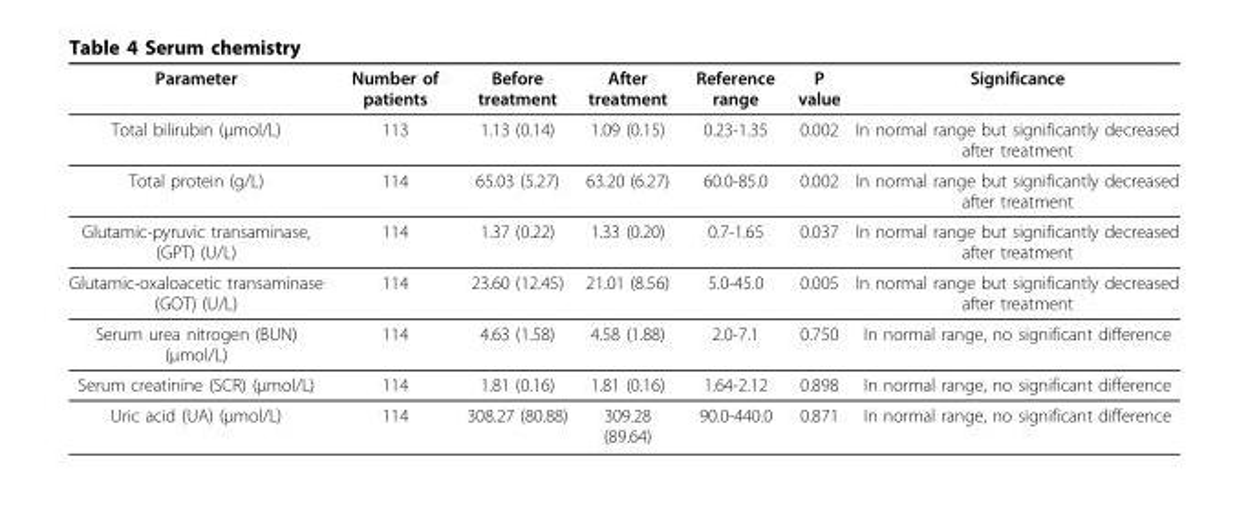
<table><thead><tr><td>Parameter</td><td>Number of patients</td><td>Before treatment</td><td>After treatment</td><td>Reference range</td><td>P value</td><td>Significance</td></tr></thead><tbody><tr><td>Total bilirubin (μmol/L)</td><td>113</td><td>1.13 (0.14)</td><td>1.09 (0.15)</td><td>0.23-1.35</td><td>0.002</td><td>In normal range but significantly decreased after treatment</td></tr><tr><td>Total protein (g/L)</td><td>114</td><td>65.03 (5.27)</td><td>63.20 (6.27)</td><td>60.0-85.0</td><td>0.002</td><td>In normal range but significantly decreased after treatment</td></tr><tr><td>Glutamic-pyruvic transaminase, (GPT) (U/L)</td><td>114</td><td>1.37 (0.22)</td><td>1.33 (0.20)</td><td>0.7-1.65</td><td>0.037</td><td>In normal range but significantly decreased after treatment</td></tr><tr><td>Glutamic-oxaloacetic transaminase (GOT) (U/L)</td><td>114</td><td>23.60 (12.45)</td><td>21.01 (8.56)</td><td>5.0-45.0</td><td>0.005</td><td>In normal range but significantly decreased after treatment</td></tr><tr><td>Serum urea nitrogen (BUN) (μmol/L)</td><td>114</td><td>4.63 (1.58)</td><td>4.58 (1.88)</td><td>2.0-7.1</td><td>0.750</td><td>In normal range, no significant difference</td></tr><tr><td>Serum creatinine (SCR) (μmol/L)</td><td>114</td><td>1.81 (0.16)</td><td>1.81 (0.16)</td><td>1.64-2.12</td><td>0.898</td><td>In normal range, no significant difference</td></tr><tr><td>Uric acid (UA) (μmol/L)</td><td>114</td><td>308.27 (80.88)</td><td>309.28 (89.64)</td><td>90.0-440.0</td><td>0.871</td><td>In normal range, no significant difference</td></tr></tbody></table>